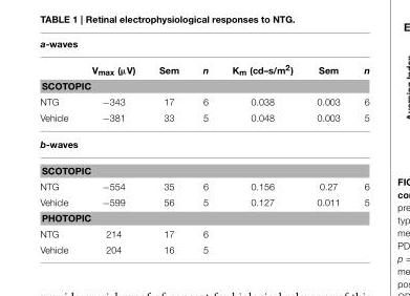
<table><thead><tr><td colspan="7">a-waves</td></tr><tr><td></td><td>V<sub>max</sub> (µV)</td><td>Sem</td><td>n</td><td>K<sub>m</sub> (cd–s/m<sup>2</sup>)</td><td>Sem</td><td>n</td></tr></thead><tbody><tr><td colspan="7">SCOTOPIC</td></tr><tr><td>NTG</td><td>−343</td><td>17</td><td>6</td><td>0.038</td><td>0.003</td><td>6</td></tr><tr><td>Vehicle</td><td>−381</td><td>33</td><td>5</td><td>0.048</td><td>0.003</td><td>5</td></tr><tr><td colspan="7">b-waves</td></tr><tr><td colspan="7">SCOTOPIC</td></tr><tr><td>NTG</td><td>−554</td><td>35</td><td>6</td><td>0.156</td><td>0.27</td><td>6</td></tr><tr><td>Vehicle</td><td>−599</td><td>56</td><td>5</td><td>0.127</td><td>0.011</td><td>5</td></tr><tr><td colspan="7">PHOTOPIC</td></tr><tr><td>NTG</td><td>214</td><td>17</td><td>6</td><td></td><td></td><td></td></tr><tr><td>Vehicle</td><td>204</td><td>16</td><td>5</td><td></td><td></td><td></td></tr></tbody></table>